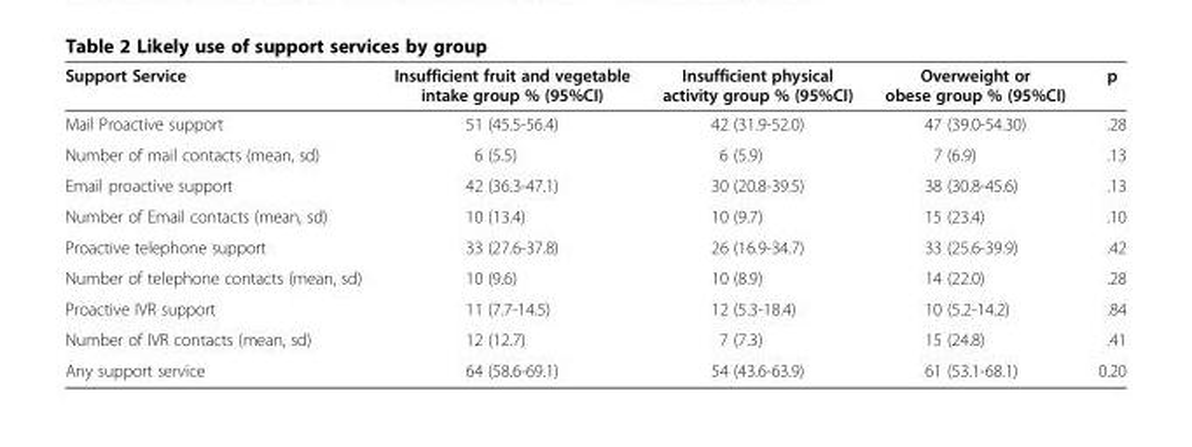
<table><thead><tr><td>Support Service</td><td>Insufficient fruit and vegetable intake group % (95%CI)</td><td>Insufficient physical activity group % (95%CI)</td><td>Overweight or obese group % (95%CI)</td><td>p</td></tr></thead><tbody><tr><td>Mail Proactive support</td><td>51 (45.5-56.4)</td><td>42 (31.9-52.0)</td><td>47 (39.0-54.30)</td><td>.28</td></tr><tr><td>Number of mail contacts (mean, sd)</td><td>6 (5.5)</td><td>6 (5.9)</td><td>7 (6.9)</td><td>.13</td></tr><tr><td>Email proactive support</td><td>42 (36.3-47.1)</td><td>30 (20.8-39.5)</td><td>38 (30.8-45.6)</td><td>.13</td></tr><tr><td>Number of Email contacts (mean, sd)</td><td>10 (13.4)</td><td>10 (9.7)</td><td>15 (23.4)</td><td>.10</td></tr><tr><td>Proactive telephone support</td><td>33 (27.6-37.8)</td><td>26 (16.9-34.7)</td><td>33 (25.6-39.9)</td><td>.42</td></tr><tr><td>Number of telephone contacts (mean, sd)</td><td>10 (9.6)</td><td>10 (8.9)</td><td>14 (22.0)</td><td>.28</td></tr><tr><td>Proactive IVR support</td><td>11 (7.7-14.5)</td><td>12 (5.3-18.4)</td><td>10 (5.2-14.2)</td><td>.84</td></tr><tr><td>Number of IVR contacts (mean, sd)</td><td>12 (12.7)</td><td>7 (7.3)</td><td>15 (24.8)</td><td>.41</td></tr><tr><td>Any support service</td><td>64 (58.6-69.1)</td><td>54 (43.6-63.9)</td><td>61 (53.1-68.1)</td><td>0.20</td></tr></tbody></table>